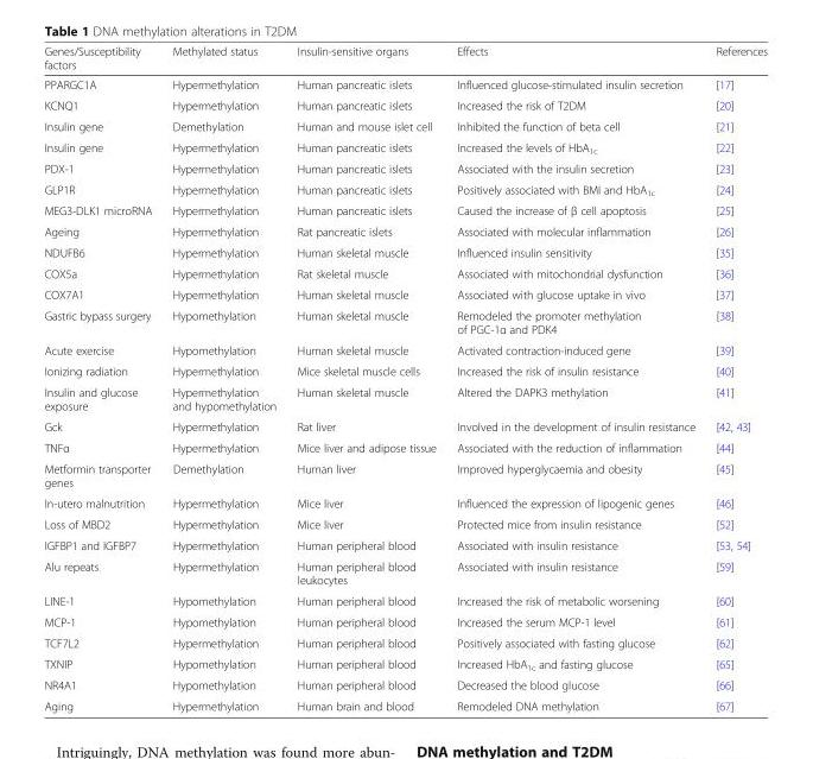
<table><thead><tr><td>Genes/Susceptibility factors</td><td>Methylated status</td><td>Insulin-sensitive organs</td><td>Effects</td><td>References</td></tr></thead><tbody><tr><td>PPARGC1A</td><td>Hypermethylation</td><td>Human pancreatic islets</td><td>Influenced glucose-stimulated insulin secretion</td><td>[17]</td></tr><tr><td>KCNQ1</td><td>Hypermethylation</td><td>Human pancreatic islets</td><td>Increased the risk of T2DM</td><td>[20]</td></tr><tr><td>Insulin gene</td><td>Demethylation</td><td>Human and mouse islet cell</td><td>Inhibited the function of beta cell</td><td>[21]</td></tr><tr><td>Insulin gene</td><td>Hypermethylation</td><td>Human pancreatic islets</td><td>Increased the levels of HbA<sub>1c</sub></td><td>[22]</td></tr><tr><td>PDX-1</td><td>Hypermethylation</td><td>Human pancreatic islets</td><td>Associated with the insulin secretion</td><td>[23]</td></tr><tr><td>GLP1R</td><td>Hypermethylation</td><td>Human pancreatic islets</td><td>Positively associated with BMI and HbA<sub>1c</sub></td><td>[24]</td></tr><tr><td>MEG3-DLK1 microRNA</td><td>Hypermethylation</td><td>Human pancreatic islets</td><td>Caused the increase of β cell apoptosis</td><td>[25]</td></tr><tr><td>Ageing</td><td>Hypermethylation</td><td>Rat pancreatic islets</td><td>Associated with molecular inflammation</td><td>[26]</td></tr><tr><td>NDUFB6</td><td>Hypermethylation</td><td>Human skeletal muscle</td><td>Influenced insulin sensitivity</td><td>[35]</td></tr><tr><td>COX5a</td><td>Hypermethylation</td><td>Rat skeletal muscle</td><td>Associated with mitochondrial dysfunction</td><td>[36]</td></tr><tr><td>COX7A1</td><td>Hypermethylation</td><td>Human skeletal muscle</td><td>Associated with glucose uptake in vivo</td><td>[37]</td></tr><tr><td>Gastric bypass surgery</td><td>Hypomethylation</td><td>Human skeletal muscle</td><td>Remodeled the promoter methylation of PGC-1α and PDK4</td><td>[38]</td></tr><tr><td>Acute exercise</td><td>Hypomethylation</td><td>Human skeletal muscle</td><td>Activated contraction-induced gene</td><td>[39]</td></tr><tr><td>Ionizing radiation</td><td>Hypermethylation</td><td>Mice skeletal muscle cells</td><td>Increased the risk of insulin resistance</td><td>[40]</td></tr><tr><td>Insulin and glucose exposure</td><td>Hypermethylation and hypomethylation</td><td>Human skeletal muscle</td><td>Altered the DAPK3 methylation</td><td>[41]</td></tr><tr><td>Gck</td><td>Hypermethylation</td><td>Rat liver</td><td>Involved in the development of insulin resistance</td><td>[42, 43]</td></tr><tr><td>TNFα</td><td>Hypermethylation</td><td>Mice liver and adipose tissue</td><td>Associated with the reduction of inflammation</td><td>[44]</td></tr><tr><td>Metformin transporter genes</td><td>Demethylation</td><td>Human liver</td><td>Improved hyperglycaemia and obesity</td><td>[45]</td></tr><tr><td>In-utero malnutrition</td><td>Hypermethylation</td><td>Mice liver</td><td>Influenced the expression of lipogenic genes</td><td>[46]</td></tr><tr><td>Loss of MBD2</td><td>Hypermethylation</td><td>Mice liver</td><td>Protected mice from insulin resistance</td><td>[52]</td></tr><tr><td>IGFBP1 and IGFBP7</td><td>Hypermethylation</td><td>Human peripheral blood</td><td>Associated with insulin resistance</td><td>[53, 54]</td></tr><tr><td>Alu repeats</td><td>Hypermethylation</td><td>Human peripheral blood leukocytes</td><td>Associated with insulin resistance</td><td>[59]</td></tr><tr><td>LINE-1</td><td>Hypomethylation</td><td>Human peripheral blood</td><td>Increased the risk of metabolic worsening</td><td>[60]</td></tr><tr><td>MCP-1</td><td>Hypomethylation</td><td>Human peripheral blood</td><td>Increased the serum MCP-1 level</td><td>[61]</td></tr><tr><td>TCF7L2</td><td>Hypermethylation</td><td>Human peripheral blood</td><td>Positively associated with fasting glucose</td><td>[62]</td></tr><tr><td>TXNIP</td><td>Hypomethylation</td><td>Human peripheral blood</td><td>Increased HbA<sub>1c</sub> and fasting glucose</td><td>[65]</td></tr><tr><td>NR4A1</td><td>Hypomethylation</td><td>Human peripheral blood</td><td>Decreased the blood glucose</td><td>[66]</td></tr><tr><td>Aging</td><td>Hypermethylation</td><td>Human brain and blood</td><td>Remodeled DNA methylation</td><td>[67]</td></tr></tbody></table>